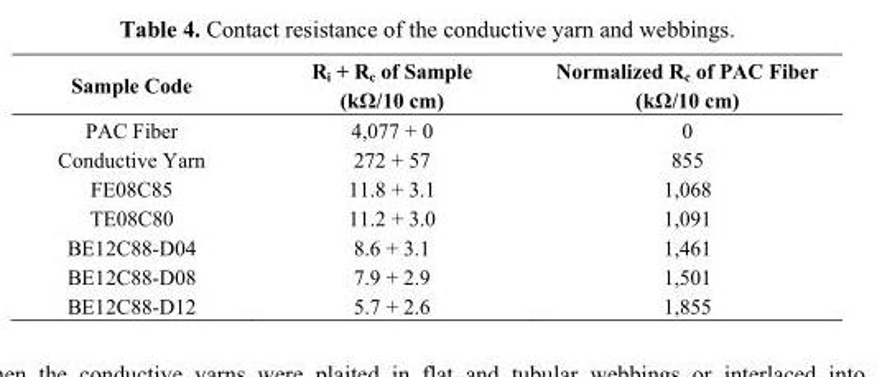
<table><thead><tr><td>Sample Code</td><td>R<sub>i</sub> + R<sub>c</sub> of Sample (kΩ/10 cm)</td><td>Normalized R<sub>c</sub> of PAC Fiber (kΩ/10 cm)</td></tr></thead><tbody><tr><td>PAC Fiber</td><td>4,077 + 0</td><td>0</td></tr><tr><td>Conductive Yarn</td><td>272 + 57</td><td>855</td></tr><tr><td>FE08C85</td><td>11.8 + 3.1</td><td>1,068</td></tr><tr><td>TE08C80</td><td>11.2 + 3.0</td><td>1,091</td></tr><tr><td>BE12C88-D04</td><td>8.6 + 3.1</td><td>1,461</td></tr><tr><td>BE12C88-D08</td><td>7.9 + 2.9</td><td>1,501</td></tr><tr><td>BE12C88-D12</td><td>5.7 + 2.6</td><td>1,855</td></tr></tbody></table>